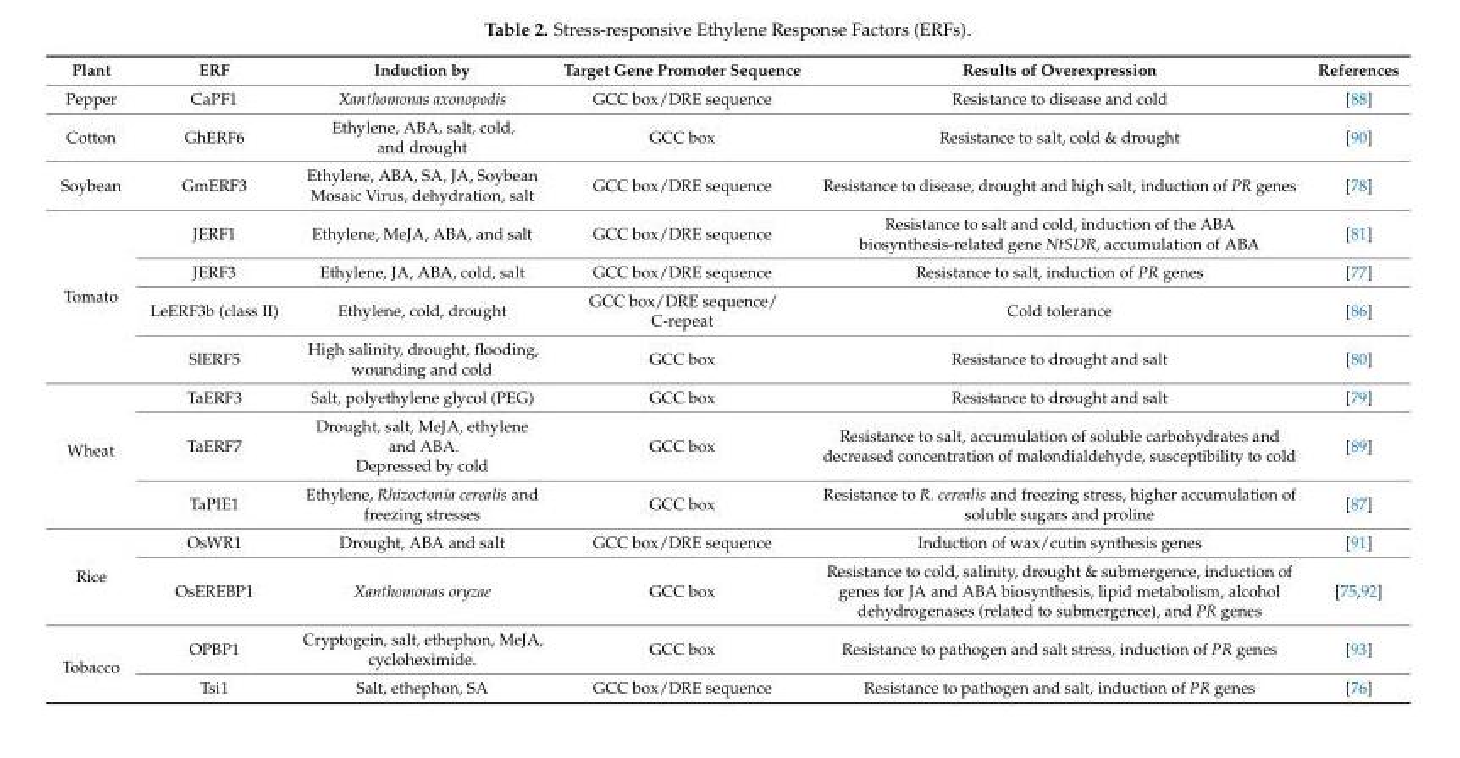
<table><thead><tr><td>Plant</td><td>ERF</td><td>Induction by</td><td>Target Gene Promoter Sequence</td><td>Results of Overexpression</td><td>References</td></tr></thead><tbody><tr><td>Pepper</td><td>CaPF1</td><td>Xanthomonas axonopodis</td><td>GCC box/DRE sequence</td><td>Resistance to disease and cold</td><td>[88]</td></tr><tr><td>Cotton</td><td>GhERF6</td><td>Ethylene, ABA, salt, cold, and drought</td><td>GCC box</td><td>Resistance to salt, cold &amp; drought</td><td>[90]</td></tr><tr><td>Soybean</td><td>GmERF3</td><td>Ethylene, ABA, SA, JA, Soybean Mosaic Virus, dehydration, salt</td><td>GCC box/DRE sequence</td><td>Resistance to disease, drought and high salt, induction of PR genes</td><td>[78]</td></tr><tr><td rowspan="4">Tomato</td><td>JERF1</td><td>Ethylene, MeJA, ABA, and salt</td><td>GCC box/DRE sequence</td><td>Resistance to salt and cold, induction of the ABA biosynthesis-related gene NtSDR, accumulation of ABA</td><td>[81]</td></tr><tr><td>JERF3</td><td>Ethylene, JA, ABA, cold, salt</td><td>GCC box/DRE sequence</td><td>Resistance to salt, induction of PR genes</td><td>[77]</td></tr><tr><td>LeERF3b (class II)</td><td>Ethylene, cold, drought</td><td>GCC box/DRE sequence/ C-repeat</td><td>Cold tolerance</td><td>[86]</td></tr><tr><td>SlERF5</td><td>High salinity, drought, flooding, wounding and cold</td><td>GCC box</td><td>Resistance to drought and salt</td><td>[80]</td></tr><tr><td rowspan="3">Wheat</td><td>TaERF3</td><td>Salt, polyethylene glycol (PEG)</td><td>GCC box</td><td>Resistance to drought and salt</td><td>[79]</td></tr><tr><td>TaERF7</td><td>Drought, salt, MeJA, ethylene and ABA. Depressed by cold</td><td>GCC box</td><td>Resistance to salt, accumulation of soluble carbohydrates and decreased concentration of malondialdehyde, susceptibility to cold</td><td>[89]</td></tr><tr><td>TaPIE1</td><td>Ethylene, Rhizoctonia cerealis and freezing stresses</td><td>GCC box</td><td>Resistance to R. cerealis and freezing stress, higher accumulation of soluble sugars and proline</td><td>[87]</td></tr><tr><td rowspan="2">Rice</td><td>OsWR1</td><td>Drought, ABA and salt</td><td>GCC box/DRE sequence</td><td>Induction of wax/cutin synthesis genes</td><td>[91]</td></tr><tr><td>OsEREBP1</td><td>Xanthomonas oryzae</td><td>GCC box</td><td>Resistance to cold, salinity, drought &amp; submergence, induction of genes for JA and ABA biosynthesis, lipid metabolism, alcohol dehydrogenases (related to submergence), and PR genes</td><td>[75,92]</td></tr><tr><td rowspan="2">Tobacco</td><td>OPBP1</td><td>Cryptogein, salt, ethephon, MeJA, cycloheximide.</td><td>GCC box</td><td>Resistance to pathogen and salt stress, induction of PR genes</td><td>[93]</td></tr><tr><td>Tsi1</td><td>Salt, ethephon, SA</td><td>GCC box/DRE sequence</td><td>Resistance to pathogen and salt, induction of PR genes</td><td>[76]</td></tr></tbody></table>